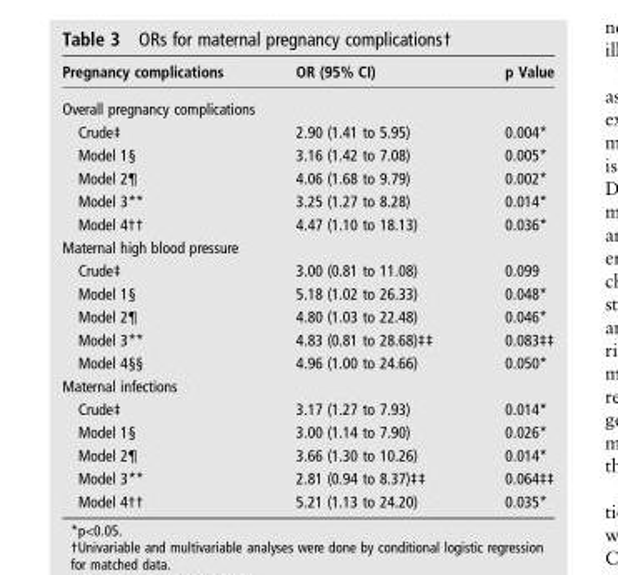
<table><thead><tr><td>Pregnancy complications</td><td>OR (95% CI)</td><td>p Value</td></tr></thead><tbody><tr><td colspan="3">Overall pregnancy complications</td></tr><tr><td>Crude‡</td><td>2.90 (1.41 to 5.95)</td><td>0.004*</td></tr><tr><td>Model 1§</td><td>3.16 (1.42 to 7.08)</td><td>0.005*</td></tr><tr><td>Model 2¶</td><td>4.06 (1.68 to 9.79)</td><td>0.002*</td></tr><tr><td>Model 3**</td><td>3.25 (1.27 to 8.28)</td><td>0.014*</td></tr><tr><td>Model 4††</td><td>4.47 (1.10 to 18.13)</td><td>0.036*</td></tr><tr><td colspan="3">Maternal high blood pressure</td></tr><tr><td>Crude‡</td><td>3.00 (0.81 to 11.08)</td><td>0.099</td></tr><tr><td>Model 1§</td><td>5.18 (1.02 to 26.33)</td><td>0.048*</td></tr><tr><td>Model 2¶</td><td>4.80 (1.03 to 22.48)</td><td>0.046*</td></tr><tr><td>Model 3**</td><td>4.83 (0.81 to 28.68)‡‡</td><td>0.083‡‡</td></tr><tr><td>Model 4§§</td><td>4.96 (1.00 to 24.66)</td><td>0.050*</td></tr><tr><td colspan="3">Maternal infections</td></tr><tr><td>Crude‡</td><td>3.17 (1.27 to 7.93)</td><td>0.014*</td></tr><tr><td>Model 1§</td><td>3.00 (1.14 to 7.90)</td><td>0.026*</td></tr><tr><td>Model 2¶</td><td>3.66 (1.30 to 10.26)</td><td>0.014*</td></tr><tr><td>Model 3**</td><td>2.81 (0.94 to 8.37)‡‡</td><td>0.064‡‡</td></tr><tr><td>Model 4††</td><td>5.21 (1.13 to 24.20)</td><td>0.035*</td></tr></tbody></table>